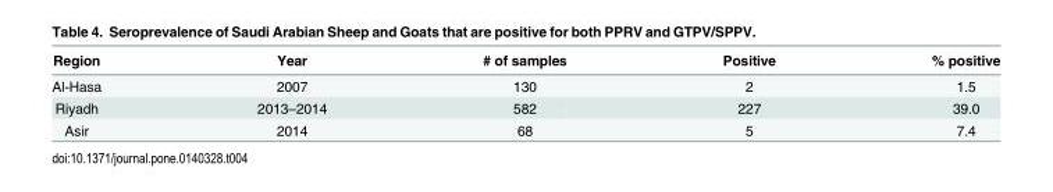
<table><thead><tr><td>Region</td><td>Year</td><td># of samples</td><td>Positive</td><td>% positive</td></tr></thead><tbody><tr><td>Al-Hasa</td><td>2007</td><td>130</td><td>2</td><td>1.5</td></tr><tr><td>Riyadh</td><td>2013–2014</td><td>582</td><td>227</td><td>39.0</td></tr><tr><td>Asir</td><td>2014</td><td>68</td><td>5</td><td>7.4</td></tr></tbody></table>